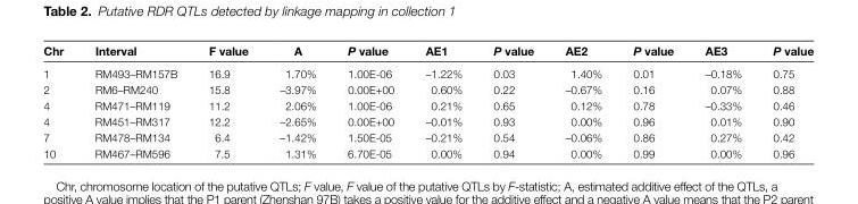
<table><thead><tr><td>Chr</td><td>Interval</td><td>F value</td><td>A</td><td>P value</td><td>AE1</td><td>P value</td><td>AE2</td><td>P value</td><td>AE3</td><td>P value</td></tr></thead><tbody><tr><td>1</td><td>RM493–RM157B</td><td>16.9</td><td>1.70%</td><td>1.00E-06</td><td>–1.22%</td><td>0.03</td><td>1.40%</td><td>0.01</td><td>–0.18%</td><td>0.75</td></tr><tr><td>2</td><td>RM6–RM240</td><td>15.8</td><td>–3.97%</td><td>0.00E+00</td><td>0.60%</td><td>0.22</td><td>–0.67%</td><td>0.16</td><td>0.07%</td><td>0.88</td></tr><tr><td>4</td><td>RM471–RM119</td><td>11.2</td><td>2.06%</td><td>1.00E-06</td><td>0.21%</td><td>0.65</td><td>0.12%</td><td>0.78</td><td>–0.33%</td><td>0.46</td></tr><tr><td>4</td><td>RM451–RM317</td><td>12.2</td><td>–2.65%</td><td>0.00E+00</td><td>–0.01%</td><td>0.93</td><td>0.00%</td><td>0.96</td><td>0.01%</td><td>0.90</td></tr><tr><td>7</td><td>RM478–RM134</td><td>6.4</td><td>–1.42%</td><td>1.50E-05</td><td>–0.21%</td><td>0.54</td><td>–0.06%</td><td>0.86</td><td>0.27%</td><td>0.42</td></tr><tr><td>10</td><td>RM467–RM596</td><td>7.5</td><td>1.31%</td><td>6.70E-05</td><td>0.00%</td><td>0.94</td><td>0.00%</td><td>0.99</td><td>0.00%</td><td>0.96</td></tr></tbody></table>